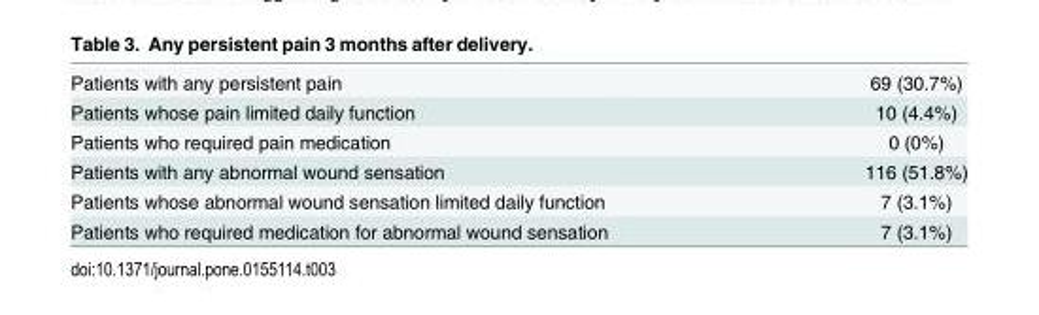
<table><tbody><tr><td>Patients with any persistent pain</td><td>69 (30.7%)</td></tr><tr><td>Patients whose pain limited daily function</td><td>10 (4.4%)</td></tr><tr><td>Patients who required pain medication</td><td>0 (0%)</td></tr><tr><td>Patients with any abnormal wound sensation</td><td>116 (51.8%)</td></tr><tr><td>Patients whose abnormal wound sensation limited daily function</td><td>7 (3.1%)</td></tr><tr><td>Patients who required medication for abnormal wound sensation</td><td>7 (3.1%)</td></tr></tbody></table>